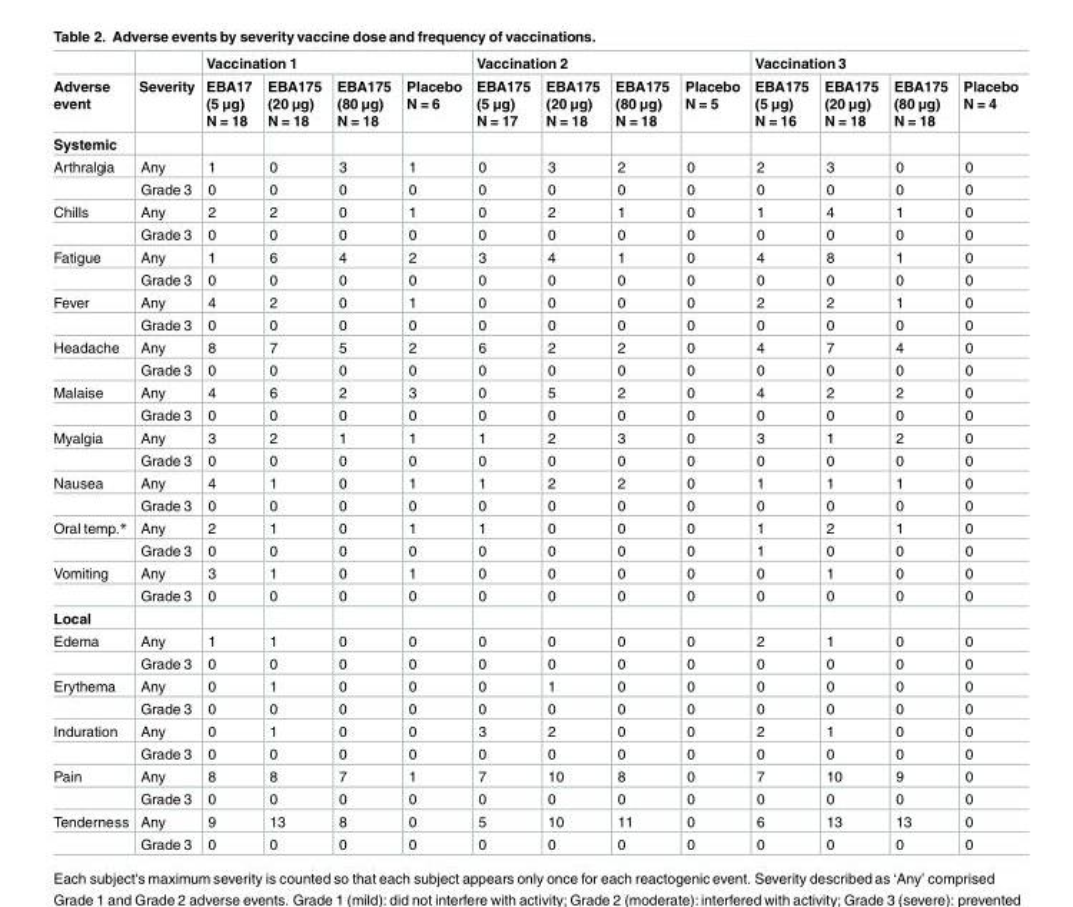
<table><thead><tr><td rowspan="2">Adverse event</td><td rowspan="2">Severity</td><td colspan="4">Vaccination 1</td><td colspan="4">Vaccination 2</td><td colspan="4">Vaccination 3</td></tr><tr><td>EBA17 (5 μg) N = 18</td><td>EBA175 (20 μg) N = 18</td><td>EBA175 (80 μg) N = 18</td><td>Placebo N = 6</td><td>EBA175 (5 μg) N = 17</td><td>EBA175 (20 μg) N = 18</td><td>EBA175 (80 μg) N = 18</td><td>Placebo N = 5</td><td>EBA175 (5 μg) N = 16</td><td>EBA175 (20 μg) N = 18</td><td>EBA175 (80 μg) N = 18</td><td>Placebo N = 4</td></tr></thead><tbody><tr><td colspan="14">Systemic</td></tr><tr><td rowspan="2">Arthralgia</td><td>Any</td><td>1</td><td>0</td><td>3</td><td>1</td><td>0</td><td>3</td><td>2</td><td>0</td><td>2</td><td>3</td><td>0</td><td>0</td></tr><tr><td>Grade 3</td><td>0</td><td>0</td><td>0</td><td>0</td><td>0</td><td>0</td><td>0</td><td>0</td><td>0</td><td>0</td><td>0</td><td>0</td></tr><tr><td rowspan="2">Chills</td><td>Any</td><td>2</td><td>2</td><td>0</td><td>1</td><td>0</td><td>2</td><td>1</td><td>0</td><td>1</td><td>4</td><td>1</td><td>0</td></tr><tr><td>Grade 3</td><td>0</td><td>0</td><td>0</td><td>0</td><td>0</td><td>0</td><td>0</td><td>0</td><td>0</td><td>0</td><td>0</td><td>0</td></tr><tr><td rowspan="2">Fatigue</td><td>Any</td><td>1</td><td>6</td><td>4</td><td>2</td><td>3</td><td>4</td><td>1</td><td>0</td><td>4</td><td>8</td><td>1</td><td>0</td></tr><tr><td>Grade 3</td><td>0</td><td>0</td><td>0</td><td>0</td><td>0</td><td>0</td><td>0</td><td>0</td><td>0</td><td>0</td><td>0</td><td>0</td></tr><tr><td rowspan="2">Fever</td><td>Any</td><td>4</td><td>2</td><td>0</td><td>1</td><td>0</td><td>0</td><td>0</td><td>0</td><td>2</td><td>2</td><td>1</td><td>0</td></tr><tr><td>Grade 3</td><td>0</td><td>0</td><td>0</td><td>0</td><td>0</td><td>0</td><td>0</td><td>0</td><td>0</td><td>0</td><td>0</td><td>0</td></tr><tr><td rowspan="2">Headache</td><td>Any</td><td>8</td><td>7</td><td>5</td><td>2</td><td>6</td><td>2</td><td>2</td><td>0</td><td>4</td><td>7</td><td>4</td><td>0</td></tr><tr><td>Grade 3</td><td>0</td><td>0</td><td>0</td><td>0</td><td>0</td><td>0</td><td>0</td><td>0</td><td>0</td><td>0</td><td>0</td><td>0</td></tr><tr><td rowspan="2">Malaise</td><td>Any</td><td>4</td><td>6</td><td>2</td><td>3</td><td>0</td><td>5</td><td>2</td><td>0</td><td>4</td><td>2</td><td>2</td><td>0</td></tr><tr><td>Grade 3</td><td>0</td><td>0</td><td>0</td><td>0</td><td>0</td><td>0</td><td>0</td><td>0</td><td>0</td><td>0</td><td>0</td><td>0</td></tr><tr><td rowspan="2">Myalgia</td><td>Any</td><td>3</td><td>2</td><td>1</td><td>1</td><td>1</td><td>2</td><td>3</td><td>0</td><td>3</td><td>1</td><td>2</td><td>0</td></tr><tr><td>Grade 3</td><td>0</td><td>0</td><td>0</td><td>0</td><td>0</td><td>0</td><td>0</td><td>0</td><td>0</td><td>0</td><td>0</td><td>0</td></tr><tr><td rowspan="2">Nausea</td><td>Any</td><td>4</td><td>1</td><td>0</td><td>1</td><td>1</td><td>2</td><td>2</td><td>0</td><td>1</td><td>1</td><td>1</td><td>0</td></tr><tr><td>Grade 3</td><td>0</td><td>0</td><td>0</td><td>0</td><td>0</td><td>0</td><td>0</td><td>0</td><td>0</td><td>0</td><td>0</td><td>0</td></tr><tr><td rowspan="2">Oral temp.*</td><td>Any</td><td>2</td><td>1</td><td>0</td><td>1</td><td>1</td><td>0</td><td>0</td><td>0</td><td>1</td><td>2</td><td>1</td><td>0</td></tr><tr><td>Grade 3</td><td>0</td><td>0</td><td>0</td><td>0</td><td>0</td><td>0</td><td>0</td><td>0</td><td>1</td><td>0</td><td>0</td><td>0</td></tr><tr><td rowspan="2">Vomiting</td><td>Any</td><td>3</td><td>1</td><td>0</td><td>1</td><td>0</td><td>0</td><td>0</td><td>0</td><td>0</td><td>1</td><td>0</td><td>0</td></tr><tr><td>Grade 3</td><td>0</td><td>0</td><td>0</td><td>0</td><td>0</td><td>0</td><td>0</td><td>0</td><td>0</td><td>0</td><td>0</td><td>0</td></tr><tr><td colspan="14">Local</td></tr><tr><td rowspan="2">Edema</td><td>Any</td><td>1</td><td>1</td><td>0</td><td>0</td><td>0</td><td>0</td><td>0</td><td>0</td><td>2</td><td>1</td><td>0</td><td>0</td></tr><tr><td>Grade 3</td><td>0</td><td>0</td><td>0</td><td>0</td><td>0</td><td>0</td><td>0</td><td>0</td><td>0</td><td>0</td><td>0</td><td>0</td></tr><tr><td rowspan="2">Erythema</td><td>Any</td><td>0</td><td>1</td><td>0</td><td>0</td><td>0</td><td>1</td><td>0</td><td>0</td><td>0</td><td>0</td><td>0</td><td>0</td></tr><tr><td>Grade 3</td><td>0</td><td>0</td><td>0</td><td>0</td><td>0</td><td>0</td><td>0</td><td>0</td><td>0</td><td>0</td><td>0</td><td>0</td></tr><tr><td rowspan="2">Induration</td><td>Any</td><td>0</td><td>1</td><td>0</td><td>0</td><td>3</td><td>2</td><td>0</td><td>0</td><td>2</td><td>1</td><td>0</td><td>0</td></tr><tr><td>Grade 3</td><td>0</td><td>0</td><td>0</td><td>0</td><td>0</td><td>0</td><td>0</td><td>0</td><td>0</td><td>0</td><td>0</td><td>0</td></tr><tr><td rowspan="2">Pain</td><td>Any</td><td>8</td><td>8</td><td>7</td><td>1</td><td>7</td><td>10</td><td>8</td><td>0</td><td>7</td><td>10</td><td>9</td><td>0</td></tr><tr><td>Grade 3</td><td>0</td><td>0</td><td>0</td><td>0</td><td>0</td><td>0</td><td>0</td><td>0</td><td>0</td><td>0</td><td>0</td><td>0</td></tr><tr><td rowspan="2">Tenderness</td><td>Any</td><td>9</td><td>13</td><td>8</td><td>0</td><td>5</td><td>10</td><td>11</td><td>0</td><td>6</td><td>13</td><td>13</td><td>0</td></tr><tr><td>Grade 3</td><td>0</td><td>0</td><td>0</td><td>0</td><td>0</td><td>0</td><td>0</td><td>0</td><td>0</td><td>0</td><td>0</td><td>0</td></tr></tbody></table>